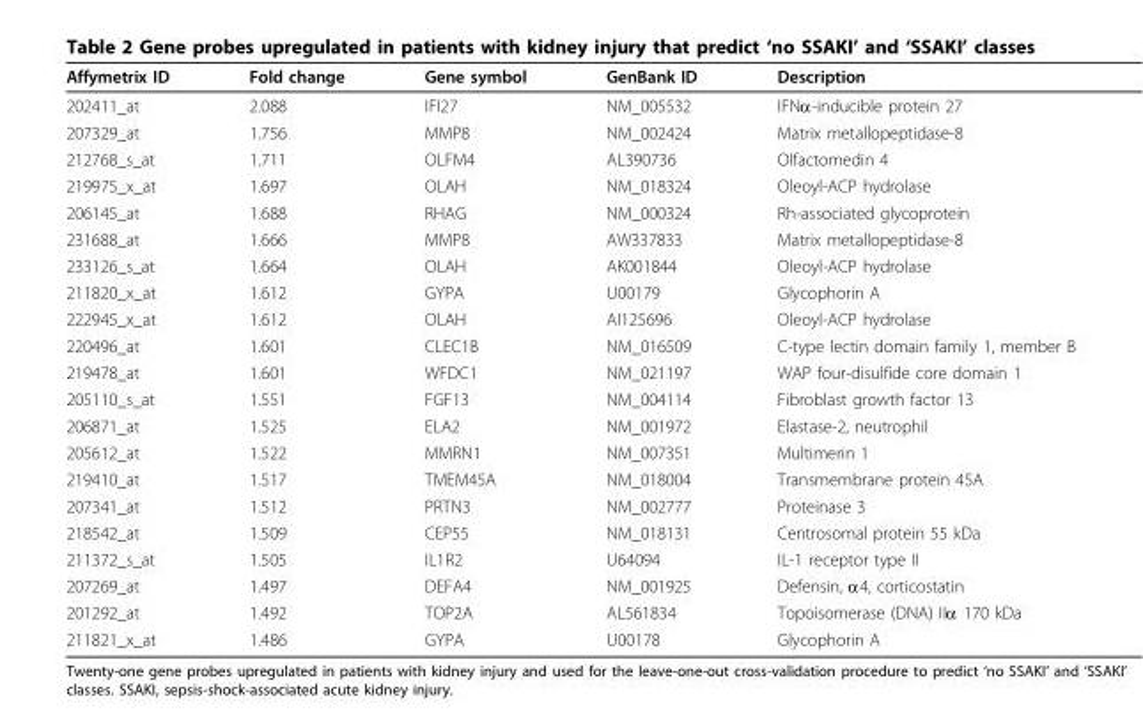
<table><thead><tr><td>Affymetrix ID</td><td>Fold change</td><td>Gene symbol</td><td>GenBank ID</td><td>Description</td></tr></thead><tbody><tr><td>202411_at</td><td>2.088</td><td>IFI27</td><td>NM_005532</td><td>IFNα-inducible protein 27</td></tr><tr><td>207329_at</td><td>1.756</td><td>MMP8</td><td>NM_002424</td><td>Matrix metallopeptidase-8</td></tr><tr><td>212768_s_at</td><td>1.711</td><td>OLFM4</td><td>AL390736</td><td>Olfactomedin 4</td></tr><tr><td>219975_x_at</td><td>1.697</td><td>OLAH</td><td>NM_018324</td><td>Oleoyl-ACP hydrolase</td></tr><tr><td>206145_at</td><td>1.688</td><td>RHAG</td><td>NM_000324</td><td>Rh-associated glycoprotein</td></tr><tr><td>231688_at</td><td>1.666</td><td>MMP8</td><td>AW337833</td><td>Matrix metallopeptidase-8</td></tr><tr><td>233126_s_at</td><td>1.664</td><td>OLAH</td><td>AK001844</td><td>Oleoyl-ACP hydrolase</td></tr><tr><td>211820_x_at</td><td>1.612</td><td>GYPA</td><td>U00179</td><td>Glycophorin A</td></tr><tr><td>222945_x_at</td><td>1.612</td><td>OLAH</td><td>AI125696</td><td>Oleoyl-ACP hydrolase</td></tr><tr><td>220496_at</td><td>1.601</td><td>CLEC1B</td><td>NM_016509</td><td>C-type lectin domain family 1, member B</td></tr><tr><td>219478_at</td><td>1.601</td><td>WFDC1</td><td>NM_021197</td><td>WAP four-disulfide core domain 1</td></tr><tr><td>205110_s_at</td><td>1.551</td><td>FGF13</td><td>NM_004114</td><td>Fibroblast growth factor 13</td></tr><tr><td>206871_at</td><td>1.525</td><td>ELA2</td><td>NM_001972</td><td>Elastase-2, neutrophil</td></tr><tr><td>205612_at</td><td>1.522</td><td>MMRN1</td><td>NM_007351</td><td>Multimerin 1</td></tr><tr><td>219410_at</td><td>1.517</td><td>TMEM45A</td><td>NM_018004</td><td>Transmembrane protein 45A</td></tr><tr><td>207341_at</td><td>1.512</td><td>PRTN3</td><td>NM_002777</td><td>Proteinase 3</td></tr><tr><td>218542_at</td><td>1.509</td><td>CEP55</td><td>NM_018131</td><td>Centrosomal protein 55 kDa</td></tr><tr><td>211372_s_at</td><td>1.505</td><td>IL1R2</td><td>U64094</td><td>IL-1 receptor type II</td></tr><tr><td>207269_at</td><td>1.497</td><td>DEFA4</td><td>NM_001925</td><td>Defensin, α4, corticostatin</td></tr><tr><td>201292_at</td><td>1.492</td><td>TOP2A</td><td>AL561834</td><td>Topoisomerase (DNA) IIα 170 kDa</td></tr><tr><td>211821_x_at</td><td>1.486</td><td>GYPA</td><td>U00178</td><td>Glycophorin A</td></tr></tbody></table>